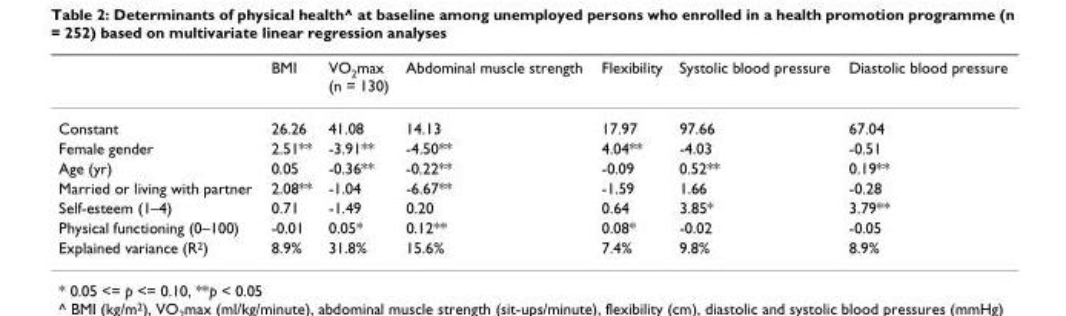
<table><thead><tr><td></td><td>BMI</td><td>VO<sub>2</sub>max (n = 130)</td><td>Abdominal muscle strength</td><td>Flexibility</td><td>Systolic blood pressure</td><td>Diastolic blood pressure</td></tr></thead><tbody><tr><td>Constant</td><td>26.26</td><td>41.08</td><td>14.13</td><td>17.97</td><td>97.66</td><td>67.04</td></tr><tr><td>Female gender</td><td>2.51**</td><td>-3.91**</td><td>-4.50**</td><td>4.04**</td><td>-4.03</td><td>-0.51</td></tr><tr><td>Age (yr)</td><td>0.05</td><td>-0.36**</td><td>-0.22**</td><td>-0.09</td><td>0.52**</td><td>0.19**</td></tr><tr><td>Married or living with partner</td><td>2.08**</td><td>-1.04</td><td>-6.67**</td><td>-1.59</td><td>1.66</td><td>-0.28</td></tr><tr><td>Self-esteem (1–4)</td><td>0.71</td><td>-1.49</td><td>0.20</td><td>0.64</td><td>3.85*</td><td>3.79**</td></tr><tr><td>Physical functioning (0–100)</td><td>-0.01</td><td>0.05*</td><td>0.12**</td><td>0.08*</td><td>-0.02</td><td>-0.05</td></tr><tr><td>Explained variance (R<sup>2</sup>)</td><td>8.9%</td><td>31.8%</td><td>15.6%</td><td>7.4%</td><td>9.8%</td><td>8.9%</td></tr></tbody></table>